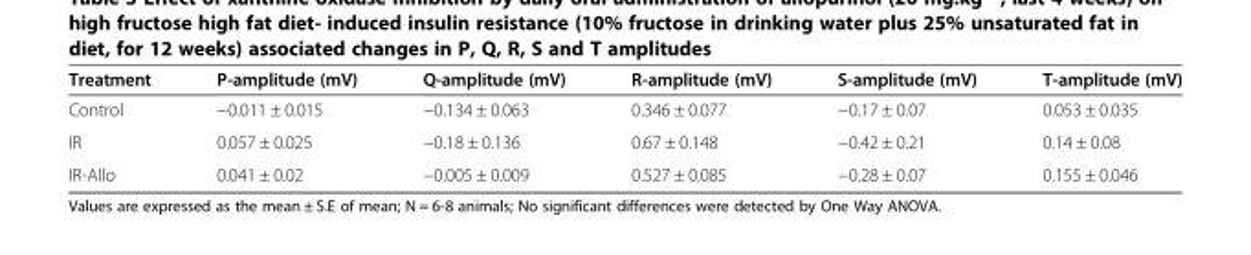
<table><thead><tr><td>Treatment</td><td>P-amplitude (mV)</td><td>Q-amplitude (mV)</td><td>R-amplitude (mV)</td><td>S-amplitude (mV)</td><td>T-amplitude (mV)</td></tr></thead><tbody><tr><td>Control</td><td>−0.011 ± 0.015</td><td>−0.134 ± 0.063</td><td>0.346 ± 0.077</td><td>−0.17 ± 0.07</td><td>0.053 ± 0.035</td></tr><tr><td>IR</td><td>0.057 ± 0.025</td><td>−0.18 ± 0.136</td><td>0.67 ± 0.148</td><td>−0.42 ± 0.21</td><td>0.14 ± 0.08</td></tr><tr><td>IR-Allo</td><td>0.041 ± 0.02</td><td>−0.005 ± 0.009</td><td>0.527 ± 0.085</td><td>−0.28 ± 0.07</td><td>0.155 ± 0.046</td></tr></tbody></table>